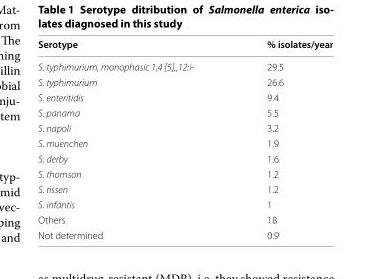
<table><thead><tr><td>Serotype</td><td>% isolates/year</td></tr></thead><tbody><tr><td>S. typhimurium, monophasic 1,4 [5],,12:i-</td><td>29.5</td></tr><tr><td>S. typhimurium</td><td>26.6</td></tr><tr><td>S. enteritidis</td><td>9.4</td></tr><tr><td>S. panama</td><td>5.5</td></tr><tr><td>S. napoli</td><td>3.2</td></tr><tr><td>S. muenchen</td><td>1.9</td></tr><tr><td>S. derby</td><td>1.6</td></tr><tr><td>S. thomson</td><td>1.2</td></tr><tr><td>S. rissen</td><td>1.2</td></tr><tr><td>S. infantis</td><td>1</td></tr><tr><td>Others</td><td>18</td></tr><tr><td>Not determined</td><td>0.9</td></tr></tbody></table>